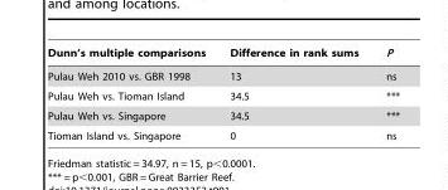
<table><thead><tr><td>Dunn’s multiple comparisons</td><td>Difference in rank sums</td><td>P</td></tr></thead><tbody><tr><td>Pulau Weh 2010 vs. GBR 1998</td><td>13</td><td>ns</td></tr><tr><td>Pulau Weh vs. Tioman Island</td><td>34.5</td><td>***</td></tr><tr><td>Pulau Weh vs. Singapore</td><td>34.5</td><td>***</td></tr><tr><td>Tioman Island vs. Singapore</td><td>0</td><td>ns</td></tr></tbody></table>